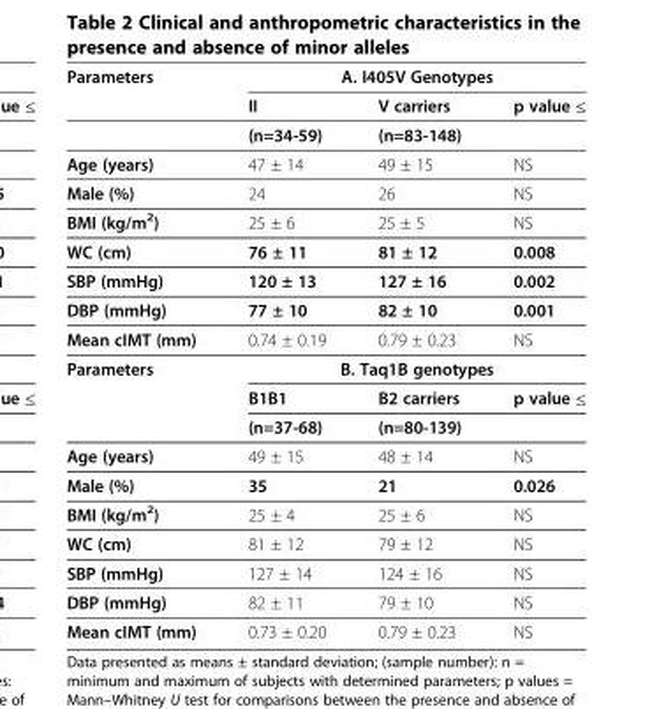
<table><thead><tr><td rowspan="2">Parameters</td><td colspan="3">A. I405V Genotypes</td></tr><tr><td>II</td><td>V carriers</td><td>p value ≤</td></tr></thead><tbody><tr><td></td><td>(n=34-59)</td><td>(n=83-148)</td><td></td></tr><tr><td>Age (years)</td><td>47 ± 14</td><td>49 ± 15</td><td>NS</td></tr><tr><td>Male (%)</td><td>24</td><td>26</td><td>NS</td></tr><tr><td>BMI (kg/m<sup>2</sup>)</td><td>25 ± 6</td><td>25 ± 5</td><td>NS</td></tr><tr><td>WC (cm)</td><td>76 ± 11</td><td>81 ± 12</td><td>0.008</td></tr><tr><td>SBP (mmHg)</td><td>120 ± 13</td><td>127 ± 16</td><td>0.002</td></tr><tr><td>DBP (mmHg)</td><td>77 ± 10</td><td>82 ± 10</td><td>0.001</td></tr><tr><td>Mean cIMT (mm)</td><td>0.74 ± 0.19</td><td>0.79 ± 0.23</td><td>NS</td></tr><tr><td rowspan="3">Parameters</td><td colspan="3">B. Taq1B genotypes</td></tr><tr><td>B1B1</td><td>B2 carriers</td><td>p value ≤</td></tr><tr><td>(n=37-68)</td><td>(n=80-139)</td><td></td></tr><tr><td>Age (years)</td><td>49 ± 15</td><td>48 ± 14</td><td>NS</td></tr><tr><td>Male (%)</td><td>35</td><td>21</td><td>0.026</td></tr><tr><td>BMI (kg/m<sup>2</sup>)</td><td>25 ± 4</td><td>25 ± 6</td><td>NS</td></tr><tr><td>WC (cm)</td><td>81 ± 12</td><td>79 ± 12</td><td>NS</td></tr><tr><td>SBP (mmHg)</td><td>127 ± 14</td><td>124 ± 16</td><td>NS</td></tr><tr><td>DBP (mmHg)</td><td>82 ± 11</td><td>79 ± 10</td><td>NS</td></tr><tr><td>Mean cIMT (mm)</td><td>0.73 ± 0.20</td><td>0.79 ± 0.23</td><td>NS</td></tr></tbody></table>